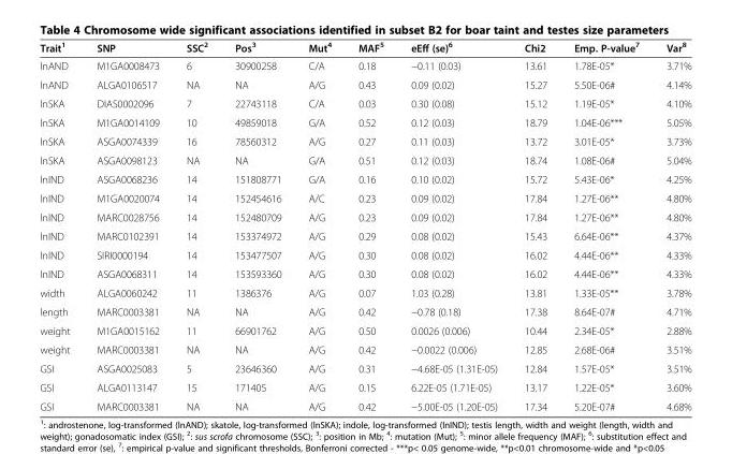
<table><thead><tr><td>Trait<sup>1</sup></td><td>SNP</td><td>SSC<sup>2</sup></td><td>Pos<sup>3</sup></td><td>Mut<sup>4</sup></td><td>MAF<sup>5</sup></td><td>eEff (se)<sup>6</sup></td><td>Chi2</td><td>Emp. P-value<sup>7</sup></td><td>Var<sup>8</sup></td></tr></thead><tbody><tr><td>lnAND</td><td>M1GA0008473</td><td>6</td><td>30900258</td><td>C/A</td><td>0.18</td><td>−0.11 (0.03)</td><td>13.61</td><td>1.78E-05*</td><td>3.71%</td></tr><tr><td>lnAND</td><td>ALGA0106517</td><td>NA</td><td>NA</td><td>A/G</td><td>0.43</td><td>0.09 (0.02)</td><td>15.27</td><td>5.50E-06#</td><td>4.14%</td></tr><tr><td>lnSKA</td><td>DIAS0002096</td><td>7</td><td>22743118</td><td>C/A</td><td>0.03</td><td>0.30 (0.08)</td><td>15.12</td><td>1.19E-05*</td><td>4.10%</td></tr><tr><td>lnSKA</td><td>M1GA0014109</td><td>10</td><td>49859018</td><td>G/A</td><td>0.52</td><td>0.12 (0.03)</td><td>18.79</td><td>1.04E-06***</td><td>5.05%</td></tr><tr><td>lnSKA</td><td>ASGA0074339</td><td>16</td><td>78560312</td><td>A/G</td><td>0.27</td><td>0.11 (0.03)</td><td>13.72</td><td>3.01E-05*</td><td>3.73%</td></tr><tr><td>lnSKA</td><td>ASGA0098123</td><td>NA</td><td>NA</td><td>G/A</td><td>0.51</td><td>0.12 (0.03)</td><td>18.74</td><td>1.08E-06#</td><td>5.04%</td></tr><tr><td>lnIND</td><td>ASGA0068236</td><td>14</td><td>151808771</td><td>G/A</td><td>0.16</td><td>0.10 (0.02)</td><td>15.72</td><td>5.43E-06*</td><td>4.25%</td></tr><tr><td>lnIND</td><td>M1GA0020074</td><td>14</td><td>152454616</td><td>A/C</td><td>0.23</td><td>0.09 (0.02)</td><td>17.84</td><td>1.27E-06**</td><td>4.80%</td></tr><tr><td>lnIND</td><td>MARC0028756</td><td>14</td><td>152480709</td><td>A/G</td><td>0.23</td><td>0.09 (0.02)</td><td>17.84</td><td>1.27E-06**</td><td>4.80%</td></tr><tr><td>lnIND</td><td>MARC0102391</td><td>14</td><td>153374972</td><td>A/G</td><td>0.29</td><td>0.08 (0.02)</td><td>15.43</td><td>6.64E-06**</td><td>4.37%</td></tr><tr><td>lnIND</td><td>SIRI0000194</td><td>14</td><td>153477507</td><td>A/G</td><td>0.30</td><td>0.08 (0.02)</td><td>16.02</td><td>4.44E-06**</td><td>4.33%</td></tr><tr><td>lnIND</td><td>ASGA0068311</td><td>14</td><td>153593360</td><td>A/G</td><td>0.30</td><td>0.08 (0.02)</td><td>16.02</td><td>4.44E-06**</td><td>4.33%</td></tr><tr><td>width</td><td>ALGA0060242</td><td>11</td><td>1386376</td><td>A/G</td><td>0.07</td><td>1.03 (0.28)</td><td>13.81</td><td>1.33E-05**</td><td>3.78%</td></tr><tr><td>length</td><td>MARC0003381</td><td>NA</td><td>NA</td><td>A/G</td><td>0.42</td><td>−0.78 (0.18)</td><td>17.38</td><td>8.64E-07#</td><td>4.71%</td></tr><tr><td>weight</td><td>M1GA0015162</td><td>11</td><td>66901762</td><td>A/G</td><td>0.50</td><td>0.0026 (0.006)</td><td>10.44</td><td>2.34E-05*</td><td>2.88%</td></tr><tr><td>weight</td><td>MARC0003381</td><td>NA</td><td>NA</td><td>A/G</td><td>0.42</td><td>−0.0022 (0.006)</td><td>12.85</td><td>2.68E-06#</td><td>3.51%</td></tr><tr><td>GSI</td><td>ASGA0025083</td><td>5</td><td>23646360</td><td>A/G</td><td>0.31</td><td>−4.68E-05 (1.31E-05)</td><td>12.84</td><td>1.57E-05*</td><td>3.51%</td></tr><tr><td>GSI</td><td>ALGA0113147</td><td>15</td><td>171405</td><td>A/G</td><td>0.15</td><td>6.22E-05 (1.71E-05)</td><td>13.17</td><td>1.22E-05*</td><td>3.60%</td></tr><tr><td>GSI</td><td>MARC0003381</td><td>NA</td><td>NA</td><td>A/G</td><td>0.42</td><td>−5.00E-05 (1.20E-05)</td><td>17.34</td><td>5.20E-07#</td><td>4.68%</td></tr></tbody></table>